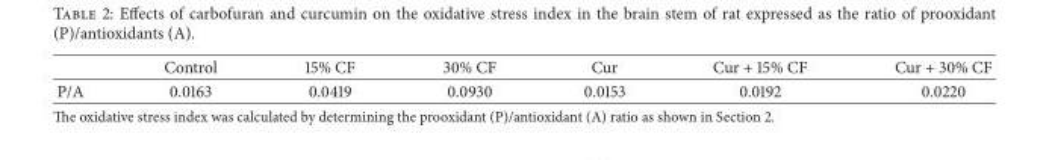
<table><thead><tr><td></td><td>Control</td><td>15% CF</td><td>30% CF</td><td>Cur</td><td>Cur + 15% CF</td><td>Cur + 30% CF</td></tr></thead><tbody><tr><td>P/A</td><td>0.0163</td><td>0.0419</td><td>0.0930</td><td>0.0153</td><td>0.0192</td><td>0.0220</td></tr></tbody></table>